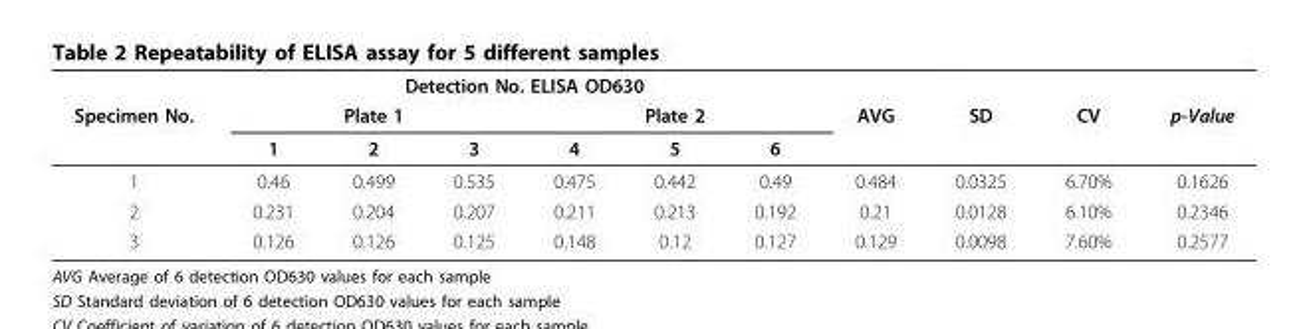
<table><thead><tr><td rowspan="3">Specimen No.</td><td colspan="6">Detection No. ELISA OD630</td><td rowspan="3">AVG</td><td rowspan="3">SD</td><td rowspan="3">CV</td><td rowspan="3">p-Value</td></tr><tr><td colspan="3">Plate 1</td><td colspan="3">Plate 2</td></tr><tr><td>1</td><td>2</td><td>3</td><td>4</td><td>5</td><td>6</td></tr></thead><tbody><tr><td>1</td><td>0.46</td><td>0.499</td><td>0.535</td><td>0.475</td><td>0.442</td><td>0.49</td><td>0.484</td><td>0.0325</td><td>6.70%</td><td>0.1626</td></tr><tr><td>2</td><td>0.231</td><td>0.204</td><td>0.207</td><td>0.211</td><td>0.213</td><td>0.192</td><td>0.21</td><td>0.0128</td><td>6.10%</td><td>0.2346</td></tr><tr><td>3</td><td>0.126</td><td>0.126</td><td>0.125</td><td>0.148</td><td>0.12</td><td>0.127</td><td>0.129</td><td>0.0098</td><td>7.60%</td><td>0.2577</td></tr></tbody></table>